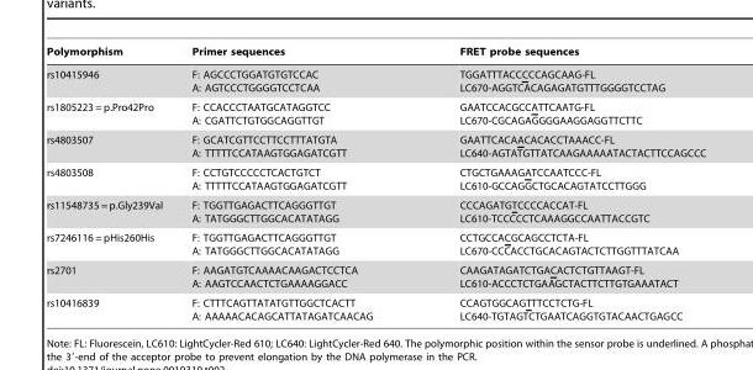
<table><thead><tr><td>Polymorphism</td><td>Primer sequences</td><td>FRET probe sequences</td></tr></thead><tbody><tr><td>rs10415946</td><td>F: AGCCCTGGATGTGTCCAC A: AGTCCCTGGGGTCCTCAA</td><td>TGGATTTACCCCCAGCAAG-FL LC670-AGGTCACAGAGATGTTTGGGGTCCTAG</td></tr><tr><td>rs1805223 = p.Pro42Pro</td><td>F: CCACCCTAATGCATAGGTCC A: CGATTCTGTGGCAGGTTGT</td><td>GAATCCACGCCATTCAATG-FL LC670-CGCAGAGGGGAAGGAGGTTCTTC</td></tr><tr><td>rs4803507</td><td>F: GCATCGTTCCTTCCTTTATGTA A: TTTTTCCATAAGTGGAGATCGTT</td><td>GAATTCACAACACACCTAAACC-FL LC640-AGTATGTTATCAAGAAAAATACTACTTCCAGCCC</td></tr><tr><td>rs4803508</td><td>F: CCTGTCCCCCTCACTGTCT A: TTTTTCCATAAGTGGAGATCGTT</td><td>CTGCTGAAAGATCCAATCCC-FL LC610-GCCAGGCTGCACAGTATCCTTGGG</td></tr><tr><td>rs11548735 = p.Gly239Val</td><td>F: TGGTTGAGACTTCAGGGTTGT A: TATGGGCTTGGCACATATAGG</td><td>CCCAGATGTCCCCACCAT-FL LC610-TCCCCCTCAAAGGCCAATTACCGTC</td></tr><tr><td>rs7246116 = pHis260His</td><td>F: TGGTTGAGACTTCAGGGTTGT A: TATGGGCTTGGCACATATAGG</td><td>CCTGCCACGCAGCCTCTA-FL LC670-CCCACCTGCACAGTACTCTTGGTTTATCAA</td></tr><tr><td>rs2701</td><td>F: AAGATGTCAAAACAAGACTCCTCA A: AAGTCCAACTCTGAAAAGGACC</td><td>CAAGATAGATCTGACACTCTGTTAAGT-FL LC610-ACCCTCTGAAGCTACTTCTTGTGAAATACT</td></tr><tr><td>rs10416839</td><td>F: CTTTCAGTTATATGTTGGCTCACTT A: AAAAACACAGCATTATAGATCAACAG</td><td>CCAGTGGCAGTTTCCTCTG-FL LC640-TGTAGTCTGAATCAGGTGTACAACTGAGCC</td></tr></tbody></table>